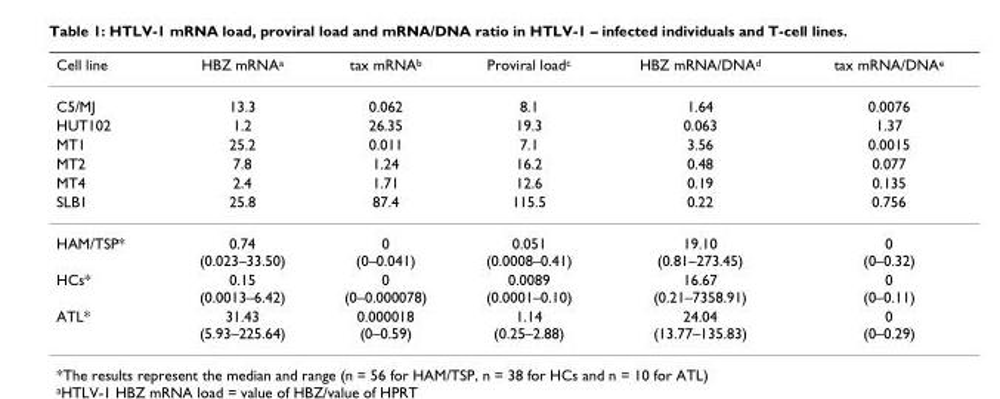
<table><thead><tr><td>Cell line</td><td>HBZ mRNA<sup>a</sup></td><td>tax mRNA<sup>b</sup></td><td>Proviral load<sup>c</sup></td><td>HBZ mRNA/DNA<sup>d</sup></td><td>tax mRNA/DNA<sup>e</sup></td></tr></thead><tbody><tr><td>C5/MJ</td><td>13.3</td><td>0.062</td><td>8.1</td><td>1.64</td><td>0.0076</td></tr><tr><td>HUT102</td><td>1.2</td><td>26.35</td><td>19.3</td><td>0.063</td><td>1.37</td></tr><tr><td>MT1</td><td>25.2</td><td>0.011</td><td>7.1</td><td>3.56</td><td>0.0015</td></tr><tr><td>MT2</td><td>7.8</td><td>1.24</td><td>16.2</td><td>0.48</td><td>0.077</td></tr><tr><td>MT4</td><td>2.4</td><td>1.71</td><td>12.6</td><td>0.19</td><td>0.135</td></tr><tr><td>SLB1</td><td>25.8</td><td>87.4</td><td>115.5</td><td>0.22</td><td>0.756</td></tr><tr><td>HAM/TSP*</td><td>0.74 (0.023–33.50)</td><td>0 (0–0.041)</td><td>0.051 (0.0008–0.41)</td><td>19.10 (0.81–273.45)</td><td>0 (0–0.32)</td></tr><tr><td>HCs*</td><td>0.15 (0.0013–6.42)</td><td>0 (0–0.000078)</td><td>0.0089 (0.0001–0.10)</td><td>16.67 (0.21–7358.91)</td><td>0 (0–0.11)</td></tr><tr><td>ATL*</td><td>31.43 (5.93–225.64)</td><td>0.000018 (0–0.59)</td><td>1.14 (0.25–2.88)</td><td>24.04 (13.77–135.83)</td><td>0 (0–0.29)</td></tr></tbody></table>